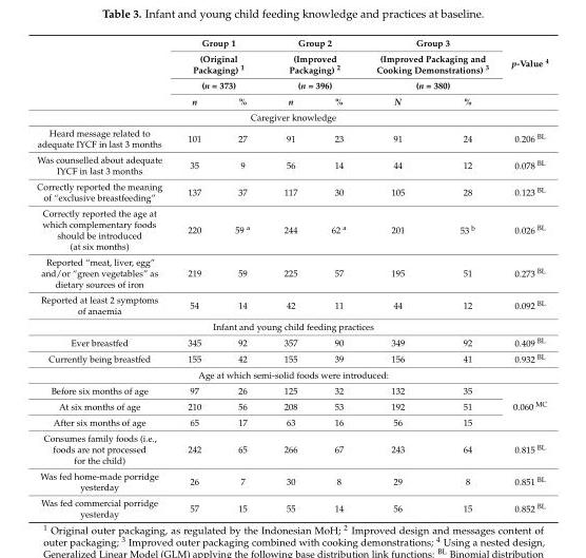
<table><thead><tr><td rowspan="4"></td><td rowspan="3" colspan="2">Group 1 (Original Packaging) <sup>1</sup> (n = 373)</td><td rowspan="3" colspan="2">Group 2 (Improved Packaging) <sup>2</sup> (n = 396)</td><td rowspan="3" colspan="2">Group 3 (Improved Packaging and Cooking Demonstrations) <sup>3</sup> (n = 380)</td><td rowspan="4">p-Value <sup>4</sup></td></tr><tr></tr><tr></tr><tr><td>n</td><td>%</td><td>n</td><td>%</td><td>N</td><td>%</td></tr></thead><tbody><tr><td colspan="8">Caregiver knowledge</td></tr><tr><td>Heard message related to adequate IYCF in last 3 months</td><td>101</td><td>27</td><td>91</td><td>23</td><td>91</td><td>24</td><td>0.206 <sup>BL</sup></td></tr><tr><td>Was counselled about adequate IYCF in last 3 months</td><td>35</td><td>9</td><td>56</td><td>14</td><td>44</td><td>12</td><td>0.078 <sup>BL</sup></td></tr><tr><td>Correctly reported the meaning of “exclusive breastfeeding”</td><td>137</td><td>37</td><td>117</td><td>30</td><td>105</td><td>28</td><td>0.123 <sup>BL</sup></td></tr><tr><td>Correctly reported the age at which complementary foods should be introduced (at six months)</td><td>220</td><td>59 <sup>a</sup></td><td>244</td><td>62 <sup>a</sup></td><td>201</td><td>53 <sup>b</sup></td><td>0.026 <sup>BL</sup></td></tr><tr><td>Reported “meat, liver, egg” and/or “green vegetables” as dietary sources of iron</td><td>219</td><td>59</td><td>225</td><td>57</td><td>195</td><td>51</td><td>0.273 <sup>BL</sup></td></tr><tr><td>Reported at least 2 symptoms of anaemia</td><td>54</td><td>14</td><td>42</td><td>11</td><td>44</td><td>12</td><td>0.092 <sup>BL</sup></td></tr><tr><td colspan="8">Infant and young child feeding practices</td></tr><tr><td>Ever breastfed</td><td>345</td><td>92</td><td>357</td><td>90</td><td>349</td><td>92</td><td>0.409 <sup>BL</sup></td></tr><tr><td>Currently being breastfed</td><td>155</td><td>42</td><td>155</td><td>39</td><td>156</td><td>41</td><td>0.932 <sup>BL</sup></td></tr><tr><td colspan="8">Age at which semi-solid foods were introduced:</td></tr><tr><td>Before six months of age</td><td>97</td><td>26</td><td>125</td><td>32</td><td>132</td><td>35</td><td rowspan="3">0.060 <sup>MC</sup></td></tr><tr><td>At six months of age</td><td>210</td><td>56</td><td>208</td><td>53</td><td>192</td><td>51</td></tr><tr><td>After six months of age</td><td>65</td><td>17</td><td>63</td><td>16</td><td>56</td><td>15</td></tr><tr><td>Consumes family foods (i.e., foods are not processed for the child)</td><td>242</td><td>65</td><td>266</td><td>67</td><td>243</td><td>64</td><td>0.815 <sup>BL</sup></td></tr><tr><td>Was fed home-made porridge yesterday</td><td>26</td><td>7</td><td>30</td><td>8</td><td>29</td><td>8</td><td>0.851 <sup>BL</sup></td></tr><tr><td>Was fed commercial porridge yesterday</td><td>57</td><td>15</td><td>55</td><td>14</td><td>56</td><td>15</td><td>0.852 <sup>BL</sup></td></tr></tbody></table>